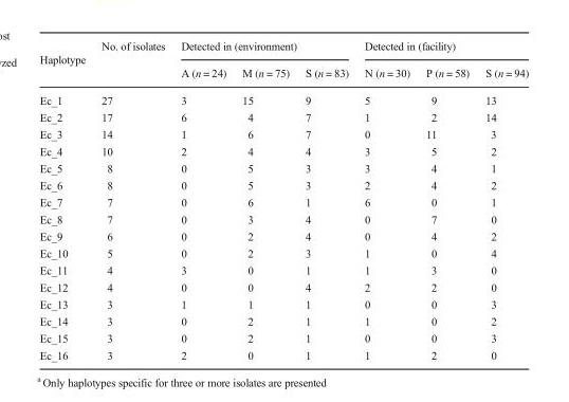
<table><thead><tr><td rowspan="2">Haplotype</td><td rowspan="2">No. of isolates</td><td colspan="3">Detected in (environment)</td><td colspan="3">Detected in (facility)</td></tr><tr><td>A (n = 24)</td><td>M (n = 75)</td><td>S (n = 83)</td><td>N (n = 30)</td><td>P (n = 58)</td><td>S (n = 94)</td></tr></thead><tbody><tr><td>Ec_1</td><td>27</td><td>3</td><td>15</td><td>9</td><td>5</td><td>9</td><td>13</td></tr><tr><td>Ec_2</td><td>17</td><td>6</td><td>4</td><td>7</td><td>1</td><td>2</td><td>14</td></tr><tr><td>Ec_3</td><td>14</td><td>1</td><td>6</td><td>7</td><td>0</td><td>11</td><td>3</td></tr><tr><td>Ec_4</td><td>10</td><td>2</td><td>4</td><td>4</td><td>3</td><td>5</td><td>2</td></tr><tr><td>Ec_5</td><td>8</td><td>0</td><td>5</td><td>3</td><td>3</td><td>4</td><td>1</td></tr><tr><td>Ec_6</td><td>8</td><td>0</td><td>5</td><td>3</td><td>2</td><td>4</td><td>2</td></tr><tr><td>Ec_7</td><td>7</td><td>0</td><td>6</td><td>1</td><td>6</td><td>0</td><td>1</td></tr><tr><td>Ec_8</td><td>7</td><td>0</td><td>3</td><td>4</td><td>0</td><td>7</td><td>0</td></tr><tr><td>Ec_9</td><td>6</td><td>0</td><td>2</td><td>4</td><td>0</td><td>4</td><td>2</td></tr><tr><td>Ec_10</td><td>5</td><td>0</td><td>2</td><td>3</td><td>1</td><td>0</td><td>4</td></tr><tr><td>Ec_11</td><td>4</td><td>3</td><td>0</td><td>1</td><td>1</td><td>3</td><td>0</td></tr><tr><td>Ec_12</td><td>4</td><td>0</td><td>0</td><td>4</td><td>2</td><td>2</td><td>0</td></tr><tr><td>Ec_13</td><td>3</td><td>1</td><td>1</td><td>1</td><td>0</td><td>0</td><td>3</td></tr><tr><td>Ec_14</td><td>3</td><td>0</td><td>2</td><td>1</td><td>1</td><td>0</td><td>2</td></tr><tr><td>Ec_15</td><td>3</td><td>0</td><td>2</td><td>1</td><td>0</td><td>0</td><td>3</td></tr><tr><td>Ec_16</td><td>3</td><td>2</td><td>0</td><td>1</td><td>1</td><td>2</td><td>0</td></tr></tbody></table>